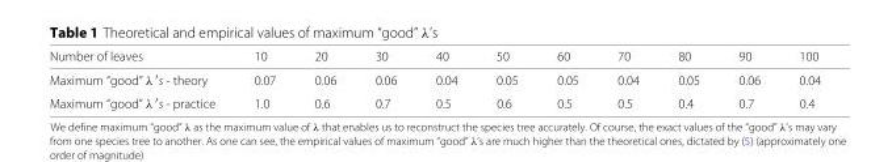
<table><thead><tr><td>Number of leaves</td><td>10</td><td>20</td><td>30</td><td>40</td><td>50</td><td>60</td><td>70</td><td>80</td><td>90</td><td>100</td></tr></thead><tbody><tr><td>Maximum “good” λ <sup>′</sup>s - theory</td><td>0.07</td><td>0.06</td><td>0.06</td><td>0.04</td><td>0.05</td><td>0.05</td><td>0.04</td><td>0.05</td><td>0.06</td><td>0.04</td></tr><tr><td>Maximum “good” λ <sup>′</sup>s - practice</td><td>1.0</td><td>0.6</td><td>0.7</td><td>0.5</td><td>0.6</td><td>0.5</td><td>0.5</td><td>0.4</td><td>0.7</td><td>0.4</td></tr></tbody></table>